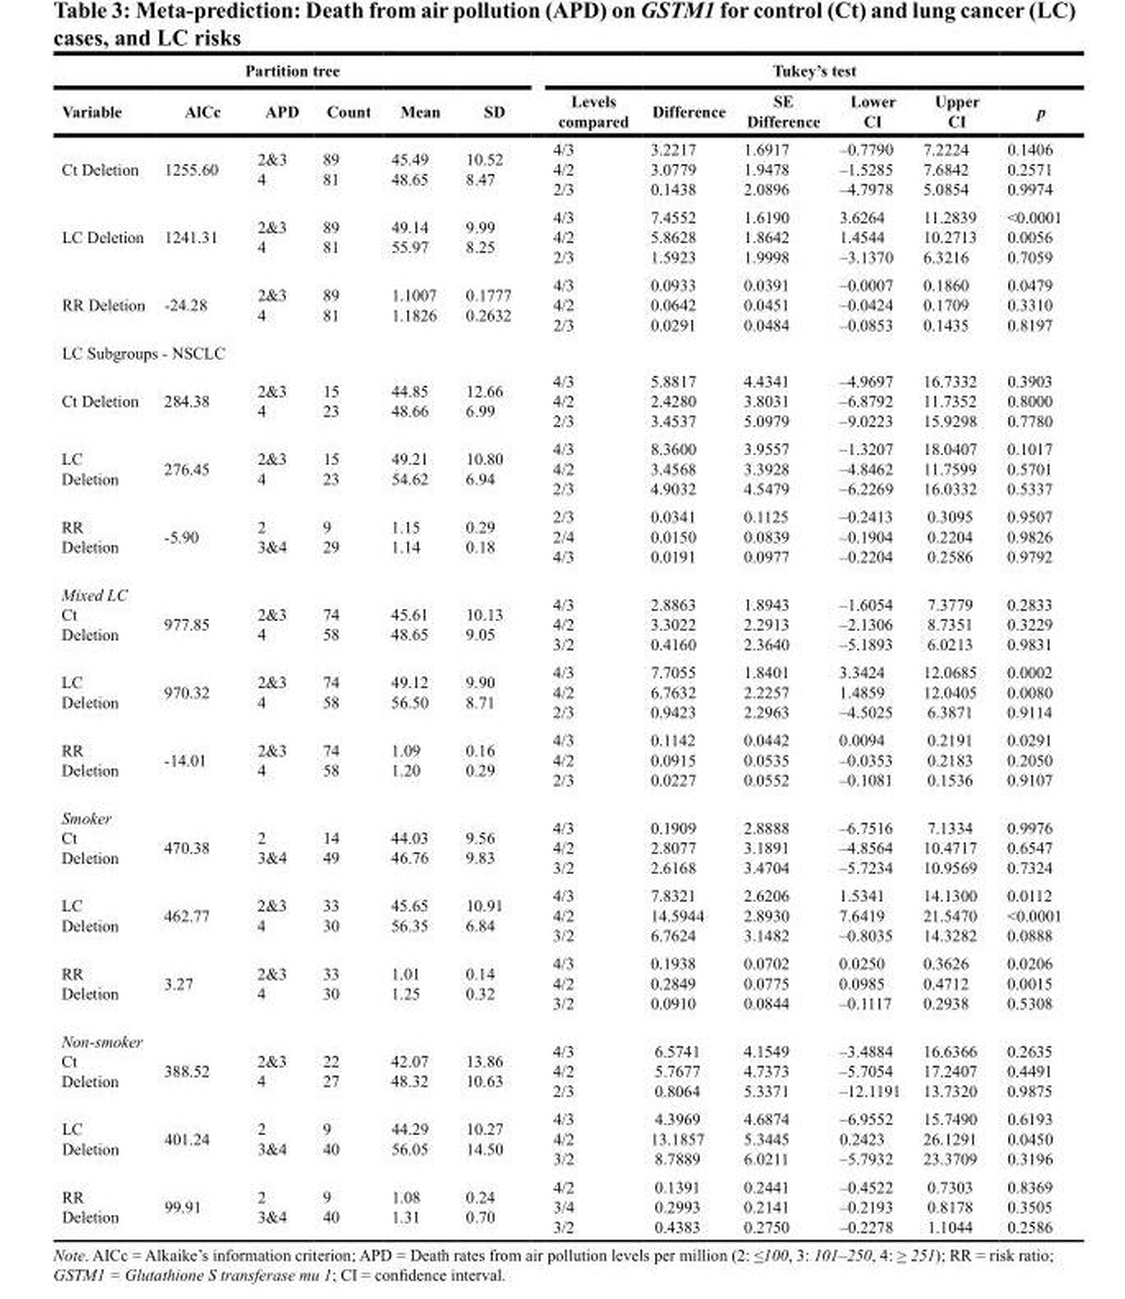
<table><thead><tr><td colspan="6">Partition tree</td><td colspan="6">tukey’s test</td></tr><tr><td>Variable</td><td>Alcc</td><td>APd</td><td>count</td><td>Mean</td><td>sd</td><td>Levels compared</td><td>difference</td><td>sE difference</td><td>Lower cI</td><td>upper cI</td><td>p</td></tr></thead><tbody><tr><td>Ct Deletion</td><td>1255.60</td><td>2&amp;3 4</td><td>89 81</td><td>45.49 48.65</td><td>10.52 8.47</td><td>4/3 4/2 2/3</td><td>3.2217 3.0779 0.1438</td><td>1.6917 1.9478 2.0896</td><td>–0.7790 –1.5285 –4.7978</td><td>7.2224 7.6842 5.0854</td><td>0.1406 0.2571 0.9974</td></tr><tr><td>LC Deletion</td><td>1241.31</td><td>2&amp;3 4</td><td>89 81</td><td>49.14 55.97</td><td>9.99 8.25</td><td>4/3 4/2 2/3</td><td>7.4552 5.8628 1.5923</td><td>1.6190 1.8642 1.9998</td><td>3.6264 1.4544 –3.1370</td><td>11.2839 10.2713 6.3216</td><td>&lt;0.0001 0.0056 0.7059</td></tr><tr><td>RR Deletion</td><td>-24.28</td><td>2&amp;3 4</td><td>89 81</td><td>1.1007 1.1826</td><td>0.1777 0.2632</td><td>4/3 4/2 2/3</td><td>0.0933 0.0642 0.0291</td><td>0.0391 0.0451 0.0484</td><td>–0.0007 –0.0424 –0.0853</td><td>0.1860 0.1709 0.1435</td><td>0.0479 0.3310 0.8197</td></tr><tr><td colspan="12">LC Subgroups - NSCLC</td></tr><tr><td>Ct Deletion</td><td>284.38</td><td>2&amp;3 4</td><td>15 23</td><td>44.85 48.66</td><td>12.66 6.99</td><td>4/3 4/2 2/3</td><td>5.8817 2.4280 3.4537</td><td>4.4341 3.8031 5.0979</td><td>–4.9697 –6.8792 –9.0223</td><td>16.7332 11.7352 15.9298</td><td>0.3903 0.8000 0.7780</td></tr><tr><td>LC Deletion</td><td>276.45</td><td>2&amp;3 4</td><td>15 23</td><td>49.21 54.62</td><td>10.80 6.94</td><td>4/3 4/2 2/3</td><td>8.3600 3.4568 4.9032</td><td>3.9557 3.3928 4.5479</td><td>–1.3207 –4.8462 –6.2269</td><td>18.0407 11.7599 16.0332</td><td>0.1017 0.5701 0.5337</td></tr><tr><td>RR Deletion</td><td>-5.90</td><td>2 3&amp;4</td><td>9 29</td><td>1.15 1.14</td><td>0.29 0.18</td><td>2/3 2/4 4/3</td><td>0.0341 0.0150 0.0191</td><td>0.1125 0.0839 0.0977</td><td>–0.2413 –0.1904 –0.2204</td><td>0.3095 0.2204 0.2586</td><td>0.9507 0.9826 0.9792</td></tr><tr><td>Mixed LC Ct Deletion</td><td>977.85</td><td>2&amp;3 4</td><td>74 58</td><td>45.61 48.65</td><td>10.13 9.05</td><td>4/3 4/2 3/2</td><td>2.8863 3.3022 0.4160</td><td>1.8943 2.2913 2.3640</td><td>–1.6054 –2.1306 –5.1893</td><td>7.3779 8.7351 6.0213</td><td>0.2833 0.3229 0.9831</td></tr><tr><td>LC Deletion</td><td>970.32</td><td>2&amp;3 4</td><td>74 58</td><td>49.12 56.50</td><td>9.90 8.71</td><td>4/3 4/2 2/3</td><td>7.7055 6.7632 0.9423</td><td>1.8401 2.2257 2.2963</td><td>3.3424 1.4859 –4.5025</td><td>12.0685 12.0405 6.3871</td><td>0.0002 0.0080 0.9114</td></tr><tr><td>RR Deletion</td><td>-14.01</td><td>2&amp;3 4</td><td>74 58</td><td>1.09 1.20</td><td>0.16 0.29</td><td>4/3 4/2 2/3</td><td>0.1142 0.0915 0.0227</td><td>0.0442 0.0535 0.0552</td><td>0.0094 –0.0353 –0.1081</td><td>0.2191 0.2183 0.1536</td><td>0.0291 0.2050 0.9107</td></tr><tr><td>Smoker Ct Deletion</td><td>470.38</td><td>2 3&amp;4</td><td>14 49</td><td>44.03 46.76</td><td>9.56 9.83</td><td>4/3 4/2 3/2</td><td>0.1909 2.8077 2.6168</td><td>2.8888 3.1891 3.4704</td><td>–6.7516 –4.8564 –5.7234</td><td>7.1334 10.4717 10.9569</td><td>0.9976 0.6547 0.7324</td></tr><tr><td>LC Deletion</td><td>462.77</td><td>2&amp;3 4</td><td>33 30</td><td>45.65 56.35</td><td>10.91 6.84</td><td>4/3 4/2 3/2</td><td>7.8321 14.5944 6.7624</td><td>2.6206 2.8930 3.1482</td><td>1.5341 7.6419 –0.8035</td><td>14.1300 21.5470 14.3282</td><td>0.0112 &lt;0.0001 0.0888</td></tr><tr><td>RR Deletion</td><td>3.27</td><td>2&amp;3 4</td><td>33 30</td><td>1.01 1.25</td><td>0.14 0.32</td><td>4/3 4/2 3/2</td><td>0.1938 0.2849 0.0910</td><td>0.0702 0.0775 0.0844</td><td>0.0250 0.0985 –0.1117</td><td>0.3626 0.4712 0.2938</td><td>0.0206 0.0015 0.5308</td></tr><tr><td>Non-smoker Ct Deletion</td><td>388.52</td><td>2&amp;3 4</td><td>22 27</td><td>42.07 48.32</td><td>13.86 10.63</td><td>4/3 4/2 2/3</td><td>6.5741 5.7677 0.8064</td><td>4.1549 4.7373 5.3371</td><td>–3.4884 –5.7054 –12.1191</td><td>16.6366 17.2407 13.7320</td><td>0.2635 0.4491 0.9875</td></tr><tr><td>LC Deletion</td><td>401.24</td><td>2 3&amp;4</td><td>9 40</td><td>44.29 56.05</td><td>10.27 14.50</td><td>4/3 4/2 3/2</td><td>4.3969 13.1857 8.7889</td><td>4.6874 5.3445 6.0211</td><td>–6.9552 0.2423 –5.7932</td><td>15.7490 26.1291 23.3709</td><td>0.6193 0.0450 0.3196</td></tr><tr><td>RR Deletion</td><td>99.91</td><td>2 3&amp;4</td><td>9 40</td><td>1.08 1.31</td><td>0.24 0.70</td><td>4/2 3/4 3/2</td><td>0.1391 0.2993 0.4383</td><td>0.2441 0.2141 0.2750</td><td>–0.4522 –0.2193 –0.2278</td><td>0.7303 0.8178 1.1044</td><td>0.8369 0.3505 0.2586</td></tr></tbody></table>